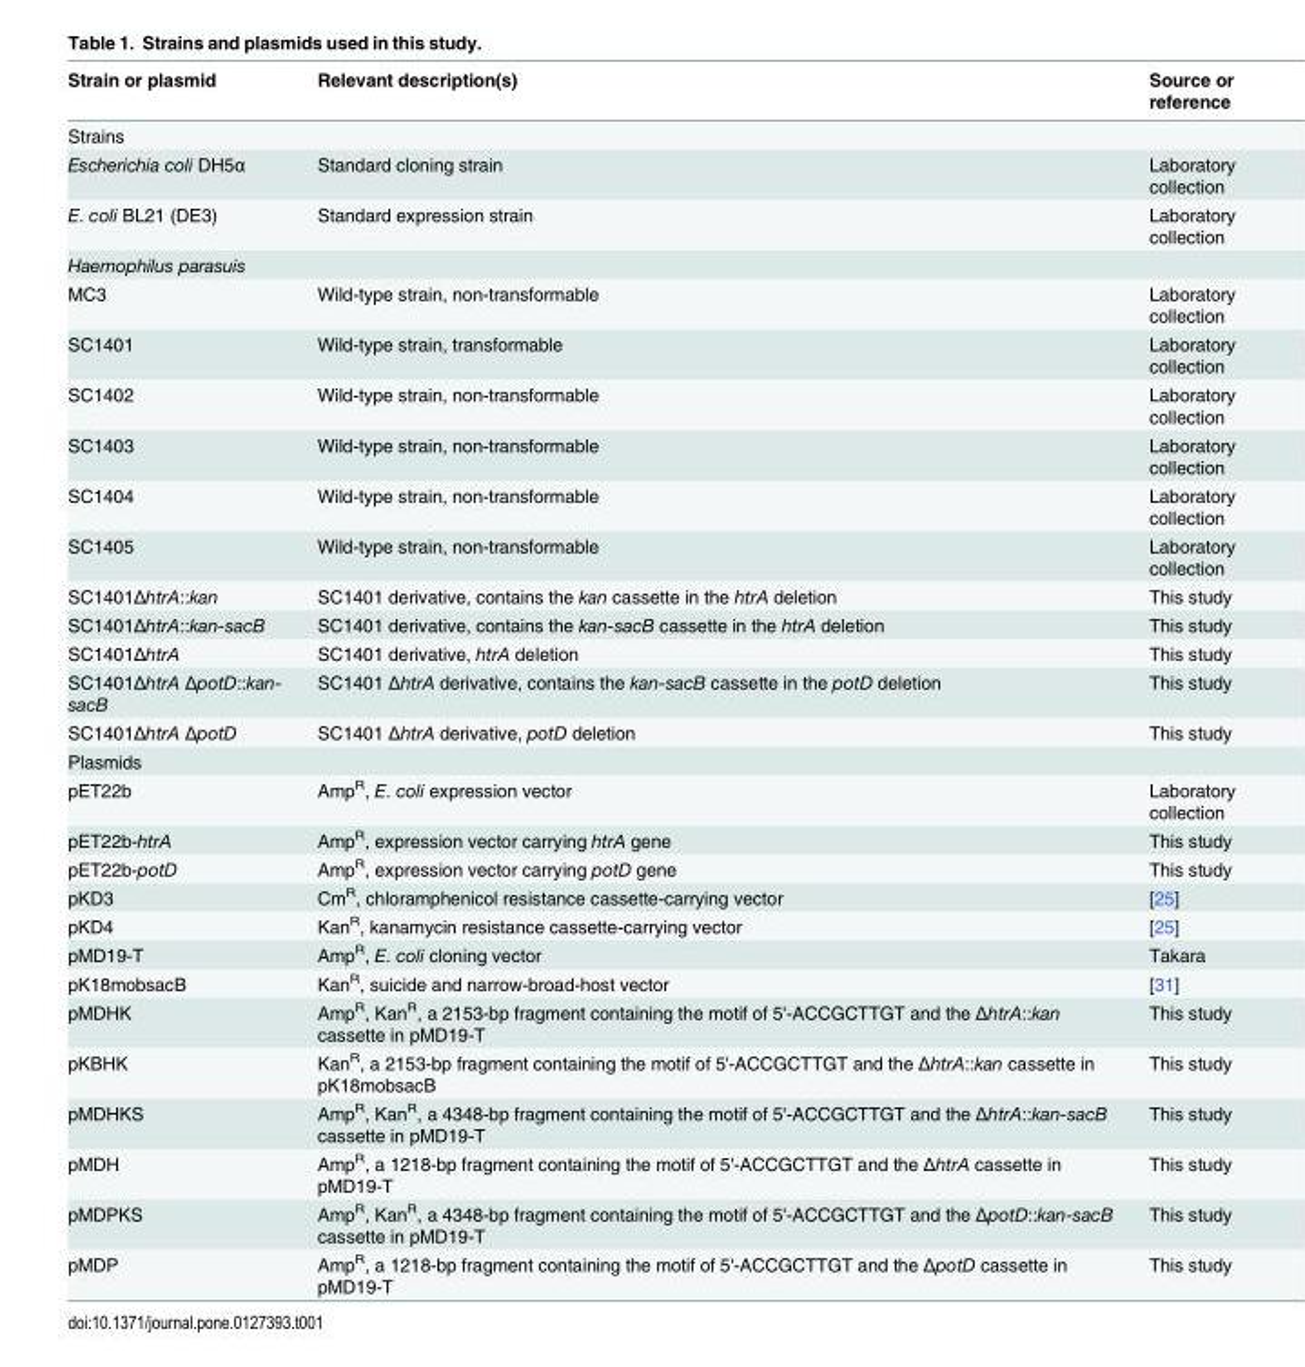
<table><thead><tr><td>Strain or plasmid</td><td>Relevant description(s)</td><td>Source or reference</td></tr></thead><tbody><tr><td colspan="3">Strains</td></tr><tr><td>Escherichia coli DH5α</td><td>Standard cloning strain</td><td>Laboratory collection</td></tr><tr><td>E. coli BL21 (DE3)</td><td>Standard expression strain</td><td>Laboratory collection</td></tr><tr><td colspan="3">Haemophilus parasuis</td></tr><tr><td>MC3</td><td>Wild-type strain, non-transformable</td><td>Laboratory collection</td></tr><tr><td>SC1401</td><td>Wild-type strain, transformable</td><td>Laboratory collection</td></tr><tr><td>SC1402</td><td>Wild-type strain, non-transformable</td><td>Laboratory collection</td></tr><tr><td>SC1403</td><td>Wild-type strain, non-transformable</td><td>Laboratory collection</td></tr><tr><td>SC1404</td><td>Wild-type strain, non-transformable</td><td>Laboratory collection</td></tr><tr><td>SC1405</td><td>Wild-type strain, non-transformable</td><td>Laboratory collection</td></tr><tr><td>SC1401ΔhtrA::kan</td><td>SC1401 derivative, contains the kan cassette in the htrA deletion</td><td>This study</td></tr><tr><td>SC1401ΔhtrA::kan-sacB</td><td>SC1401 derivative, contains the kan-sacB cassette in the htrA deletion</td><td>This study</td></tr><tr><td>SC1401ΔhtrA</td><td>SC1401 derivative, htrA deletion</td><td>This study</td></tr><tr><td>SC1401ΔhtrA ΔpotD::kan- sacB</td><td>SC1401 ΔhtrA derivative, contains the kan-sacB cassette in the potD deletion</td><td>This study</td></tr><tr><td>SC1401ΔhtrA ΔpotD</td><td>SC1401 ΔhtrA derivative, potD deletion</td><td>This study</td></tr><tr><td colspan="3">Plasmids</td></tr><tr><td>pET22b</td><td>Amp<sup>R</sup>, E. coli expression vector</td><td>Laboratory collection</td></tr><tr><td>pET22b-htrA</td><td>Amp<sup>R</sup>, expression vector carrying htrA gene</td><td>This study</td></tr><tr><td>pET22b-potD</td><td>Amp<sup>R</sup>, expression vector carrying potD gene</td><td>This study</td></tr><tr><td>pKD3</td><td>Cm<sup>R</sup>, chloramphenicol resistance cassette-carrying vector</td><td>[25]</td></tr><tr><td>pKD4</td><td>Kan<sup>R</sup>, kanamycin resistance cassette-carrying vector</td><td>[25]</td></tr><tr><td>pMD19-T</td><td>Amp<sup>R</sup>, E. coli cloning vector</td><td>Takara</td></tr><tr><td>pK18mobsacB</td><td>Kan<sup>R</sup>, suicide and narrow-broad-host vector</td><td>[31]</td></tr><tr><td>pMDHK</td><td>Amp<sup>R</sup>, Kan<sup>R</sup>, a 2153-bp fragment containing the motif of 5&#x27;-ACCGCTTGT and the ΔhtrA::kan cassette in pMD19-T</td><td>This study</td></tr><tr><td>pKBHK</td><td>Kan<sup>R</sup>, a 2153-bp fragment containing the motif of 5&#x27;-ACCGCTTGT and the ΔhtrA::kan cassette in pK18mobsacB</td><td>This study</td></tr><tr><td>pMDHKS</td><td>Amp<sup>R</sup>, Kan<sup>R</sup>, a 4348-bp fragment containing the motif of 5&#x27;-ACCGCTTGT and the ΔhtrA::kan-sacB cassette in pMD19-T</td><td>This study</td></tr><tr><td>pMDH</td><td>Amp<sup>R</sup>, a 1218-bp fragment containing the motif of 5&#x27;-ACCGCTTGT and the ΔhtrA cassette in pMD19-T</td><td>This study</td></tr><tr><td>pMDPKS</td><td>Amp<sup>R</sup>, Kan<sup>R</sup>, a 4348-bp fragment containing the motif of 5&#x27;-ACCGCTTGT and the ΔpotD::kan-sacB cassette in pMD19-T</td><td>This study</td></tr><tr><td>pMDP</td><td>Amp<sup>R</sup>, a 1218-bp fragment containing the motif of 5&#x27;-ACCGCTTGT and the ΔpotD cassette in pMD19-T</td><td>This study</td></tr></tbody></table>